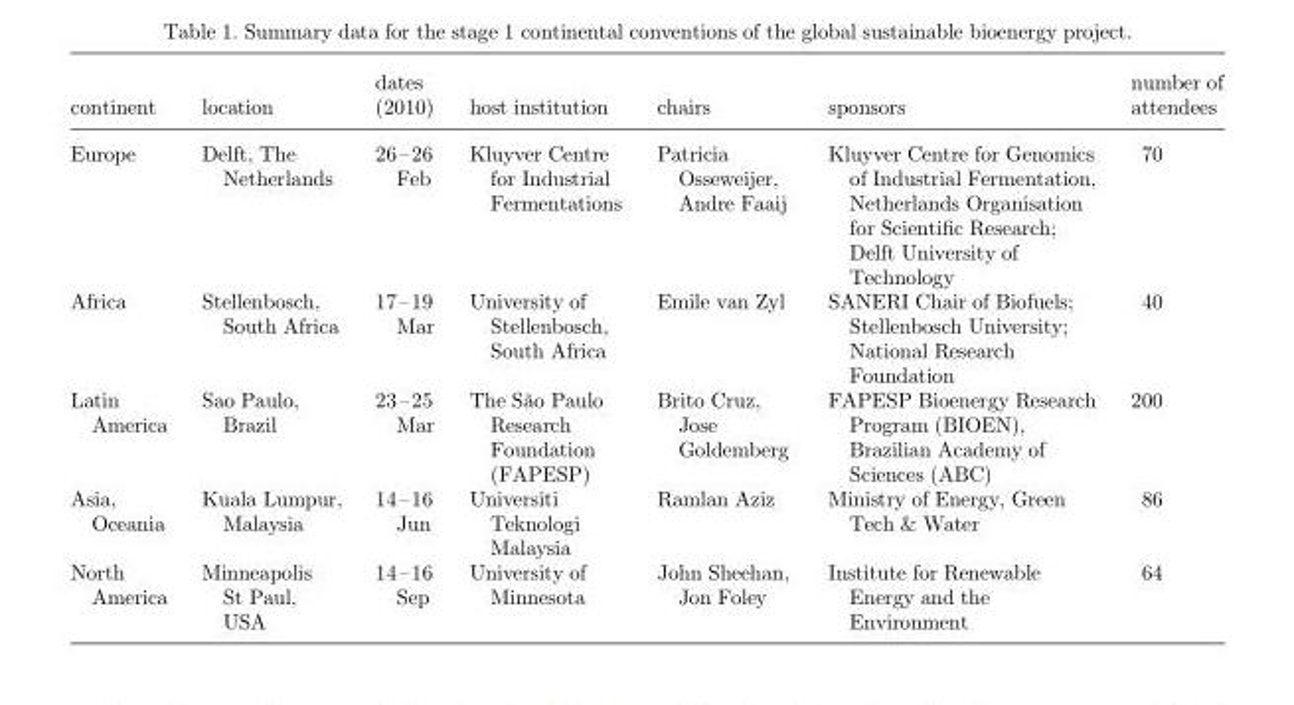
<table><thead><tr><td>continent</td><td>location</td><td>dates (2010)</td><td>host institution</td><td>chairs</td><td>sponsors</td><td>number of attendees</td></tr></thead><tbody><tr><td>Europe</td><td>Delft, The Netherlands</td><td>26–26 Feb</td><td>Kluyver Centre for Industrial Fermentations</td><td>Patricia Osseweijer, Andre Faaij</td><td>Kluyver Centre for Genomics of Industrial Fermentation, Netherlands Organisation for Scientific Research; Delft University of Technology</td><td>70</td></tr><tr><td>Africa</td><td>Stellenbosch, South Africa</td><td>17–19 Mar</td><td>University of Stellenbosch, South Africa</td><td>Emile van Zyl</td><td>SANERI Chair of Biofuels; Stellenbosch University; National Research Foundation</td><td>40</td></tr><tr><td>Latin America</td><td>Sao Paulo, Brazil</td><td>23–25 Mar</td><td>The Sa˜o Paulo Research Foundation (FAPESP)</td><td>Brito Cruz, Jose Goldemberg</td><td>FAPESP Bioenergy Research Program (BIOEN), Brazilian Academy of Sciences (ABC)</td><td>200</td></tr><tr><td>Asia, Oceania</td><td>Kuala Lumpur, Malaysia</td><td>14–16 Jun</td><td>Universiti Teknologi Malaysia</td><td>Ramlan Aziz</td><td>Ministry of Energy, Green Tech &amp; Water</td><td>86</td></tr><tr><td>North America</td><td>Minneapolis St Paul, USA</td><td>14–16 Sep</td><td>University of Minnesota</td><td>John Sheehan, Jon Foley</td><td>Institute for Renewable Energy and the Environment</td><td>64</td></tr></tbody></table>